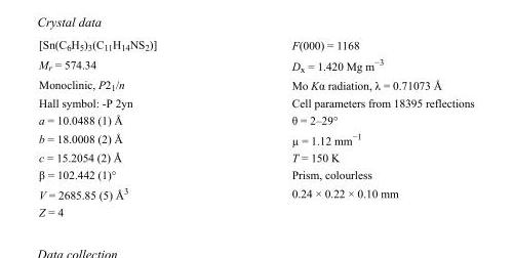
<table><tbody><tr><td>[Sn(C<sub>6</sub>H<sub>5</sub>)<sub>3</sub>(C<sub>11</sub>H<sub>14</sub>NS<sub>2</sub>)]</td><td>F(000) = 1168</td></tr><tr><td>M<sub>r</sub> = 574.34</td><td>D<sub>x</sub> = 1.420 Mg m<sup>−3</sup></td></tr><tr><td>Monoclinic, P2<sub>1</sub>/n</td><td>Mo Kα radiation, λ = 0.71073 Å</td></tr><tr><td>Hall symbol: -P 2yn</td><td>Cell parameters from 18395 reflections</td></tr><tr><td>a = 10.0488 (1) Å</td><td>θ = 2–29°</td></tr><tr><td>b = 18.0008 (2) Å</td><td>µ = 1.12 mm<sup>−1</sup></td></tr><tr><td>c = 15.2054 (2) Å</td><td>T = 150 K</td></tr><tr><td>β = 102.442 (1)°</td><td>Prism, colourless</td></tr><tr><td>V = 2685.85 (5) Å<sup>3</sup></td><td>0.24 × 0.22 × 0.10 mm</td></tr><tr><td>Z = 4</td><td></td></tr></tbody></table>